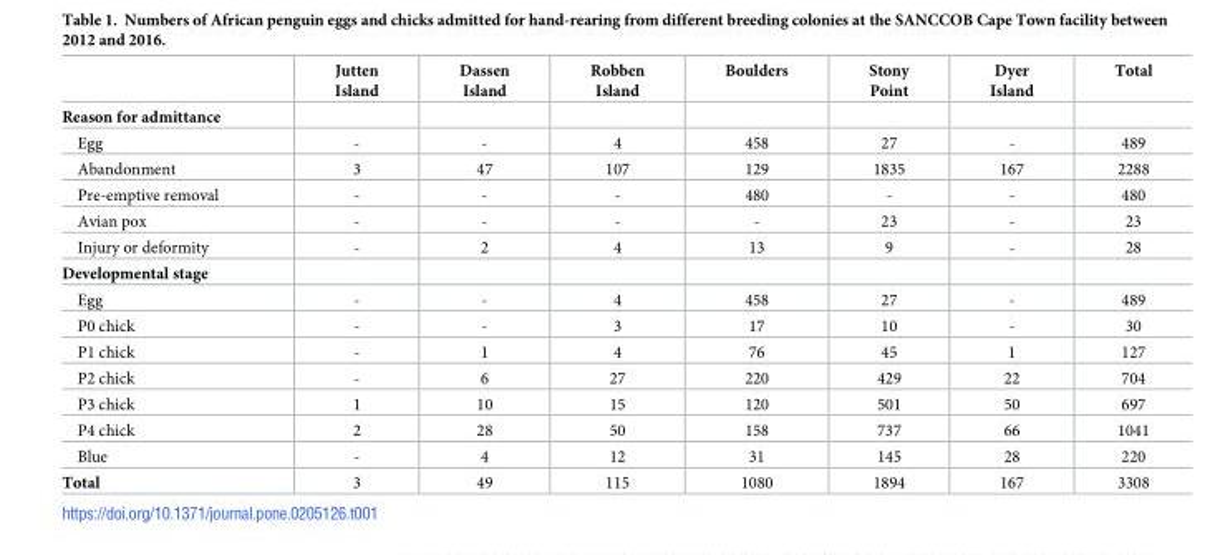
<table><thead><tr><td></td><td>Jutten Island</td><td>Dassen Island</td><td>Robben Island</td><td>Boulders</td><td>Stony Point</td><td>Dyer Island</td><td>Total</td></tr></thead><tbody><tr><td colspan="8">Reason for admittance</td></tr><tr><td>Egg</td><td>-</td><td>-</td><td>4</td><td>458</td><td>27</td><td>-</td><td>489</td></tr><tr><td>Abandonment</td><td>3</td><td>47</td><td>107</td><td>129</td><td>1835</td><td>167</td><td>2288</td></tr><tr><td>Pre-emptive removal</td><td>-</td><td>-</td><td>-</td><td>480</td><td>-</td><td>-</td><td>480</td></tr><tr><td>Avian pox</td><td>-</td><td>-</td><td>-</td><td>-</td><td>23</td><td>-</td><td>23</td></tr><tr><td>Injury or deformity</td><td>-</td><td>2</td><td>4</td><td>13</td><td>9</td><td>-</td><td>28</td></tr><tr><td colspan="8">Developmental stage</td></tr><tr><td>Egg</td><td>-</td><td>-</td><td>4</td><td>458</td><td>27</td><td>-</td><td>489</td></tr><tr><td>P0 chick</td><td>-</td><td>-</td><td>3</td><td>17</td><td>10</td><td>-</td><td>30</td></tr><tr><td>P1 chick</td><td>-</td><td>1</td><td>4</td><td>76</td><td>45</td><td>1</td><td>127</td></tr><tr><td>P2 chick</td><td>-</td><td>6</td><td>27</td><td>220</td><td>429</td><td>22</td><td>704</td></tr><tr><td>P3 chick</td><td>1</td><td>10</td><td>15</td><td>120</td><td>501</td><td>50</td><td>697</td></tr><tr><td>P4 chick</td><td>2</td><td>28</td><td>50</td><td>158</td><td>737</td><td>66</td><td>1041</td></tr><tr><td>Blue</td><td>-</td><td>4</td><td>12</td><td>31</td><td>145</td><td>28</td><td>220</td></tr><tr><td>Total</td><td>3</td><td>49</td><td>115</td><td>1080</td><td>1894</td><td>167</td><td>3308</td></tr></tbody></table>